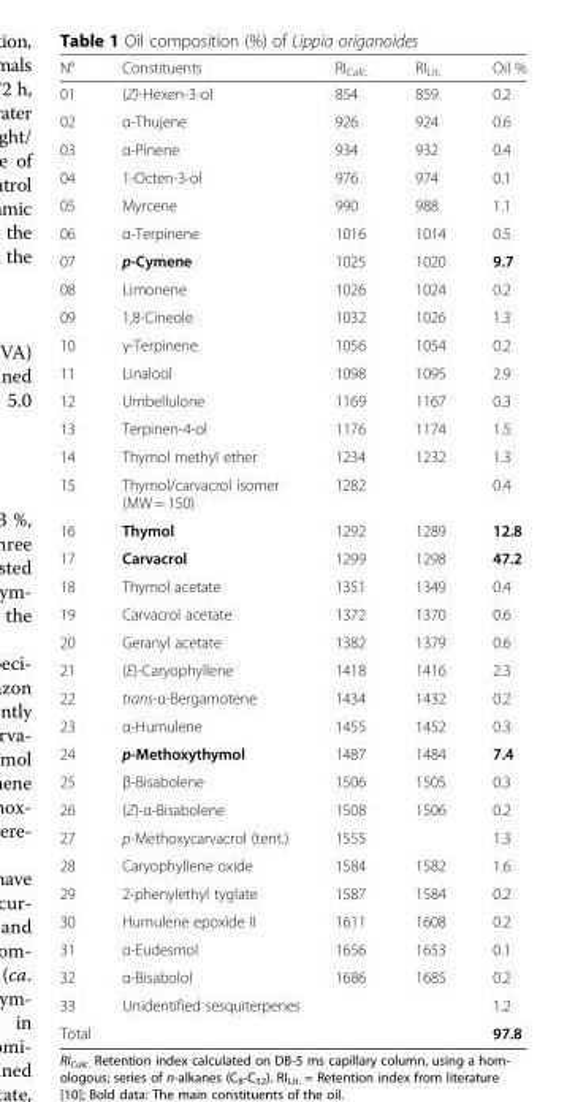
<table><thead><tr><td>N°</td><td>Constituents</td><td>RI<sub>Calc.</sub></td><td>RI<sub>Lit.</sub></td><td>Oil %</td></tr></thead><tbody><tr><td>01</td><td>(Z)-Hexen-3-ol</td><td>854</td><td>859</td><td>0.2</td></tr><tr><td>02</td><td>α-Thujene</td><td>926</td><td>924</td><td>0.6</td></tr><tr><td>03</td><td>α-Pinene</td><td>934</td><td>932</td><td>0.4</td></tr><tr><td>04</td><td>1-Octen-3-ol</td><td>976</td><td>974</td><td>0.1</td></tr><tr><td>05</td><td>Myrcene</td><td>990</td><td>988</td><td>1.1</td></tr><tr><td>06</td><td>α-Terpinene</td><td>1016</td><td>1014</td><td>0.5</td></tr><tr><td>07</td><td>p-Cymene</td><td>1025</td><td>1020</td><td>9.7</td></tr><tr><td>08</td><td>Limonene</td><td>1026</td><td>1024</td><td>0.2</td></tr><tr><td>09</td><td>1,8-Cineole</td><td>1032</td><td>1026</td><td>1.3</td></tr><tr><td>10</td><td>γ-Terpinene</td><td>1056</td><td>1054</td><td>0.2</td></tr><tr><td>11</td><td>Linalool</td><td>1098</td><td>1095</td><td>2.9</td></tr><tr><td>12</td><td>Umbellulone</td><td>1169</td><td>1167</td><td>0.3</td></tr><tr><td>13</td><td>Terpinen-4-ol</td><td>1176</td><td>1174</td><td>1.5</td></tr><tr><td>14</td><td>Thymol methyl ether</td><td>1234</td><td>1232</td><td>1.3</td></tr><tr><td>15</td><td>Thymol/carvacrol isomer (MW = 150)</td><td>1282</td><td></td><td>0.4</td></tr><tr><td>16</td><td>Thymol</td><td>1292</td><td>1289</td><td>12.8</td></tr><tr><td>17</td><td>Carvacrol</td><td>1299</td><td>1298</td><td>47.2</td></tr><tr><td>18</td><td>Thymol acetate</td><td>1351</td><td>1349</td><td>0.4</td></tr><tr><td>19</td><td>Carvacrol acetate</td><td>1372</td><td>1370</td><td>0.6</td></tr><tr><td>20</td><td>Geranyl acetate</td><td>1382</td><td>1379</td><td>0.6</td></tr><tr><td>21</td><td>(E)-Caryophyllene</td><td>1418</td><td>1416</td><td>2.3</td></tr><tr><td>22</td><td>trans-α-Bergamotene</td><td>1434</td><td>1432</td><td>0.2</td></tr><tr><td>23</td><td>α-Humulene</td><td>1455</td><td>1452</td><td>0.3</td></tr><tr><td>24</td><td>p-Methoxythymol</td><td>1487</td><td>1484</td><td>7.4</td></tr><tr><td>25</td><td>β-Bisabolene</td><td>1506</td><td>1505</td><td>0.3</td></tr><tr><td>26</td><td>(Z)-α-Bisabolene</td><td>1508</td><td>1506</td><td>0.2</td></tr><tr><td>27</td><td>p-Methoxycarvacrol (tent.)</td><td>1555</td><td></td><td>1.3</td></tr><tr><td>28</td><td>Caryophyllene oxide</td><td>1584</td><td>1582</td><td>1.6</td></tr><tr><td>29</td><td>2-phenylethyl tyglate</td><td>1587</td><td>1584</td><td>0.2</td></tr><tr><td>30</td><td>Humulene epoxide II</td><td>1611</td><td>1608</td><td>0.2</td></tr><tr><td>31</td><td>α-Eudesmol</td><td>1656</td><td>1653</td><td>0.1</td></tr><tr><td>32</td><td>α-Bisabolol</td><td>1686</td><td>1685</td><td>0.2</td></tr><tr><td>33</td><td colspan="3">Unidentified sesquiterpenes</td><td>1.2</td></tr><tr><td colspan="4">Total</td><td>97.8</td></tr></tbody></table>